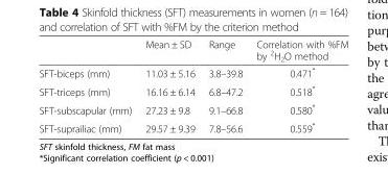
<table><thead><tr><td></td><td>Mean ± SD</td><td>Range</td><td>Correlation with %FM by <sup>2</sup>H<sub>2</sub>O method</td></tr></thead><tbody><tr><td>SFT-biceps (mm)</td><td>11.03 ± 5.16</td><td>3.8–39.8</td><td>0.471*</td></tr><tr><td>SFT-triceps (mm)</td><td>16.16 ± 6.14</td><td>6.8–47.2</td><td>0.518*</td></tr><tr><td>SFT-subscapular (mm)</td><td>27.23 ± 9.8</td><td>9.1–66.8</td><td>0.580*</td></tr><tr><td>SFT-suprailiac (mm)</td><td>29.57 ± 9.39</td><td>7.8–56.6</td><td>0.559*</td></tr></tbody></table>